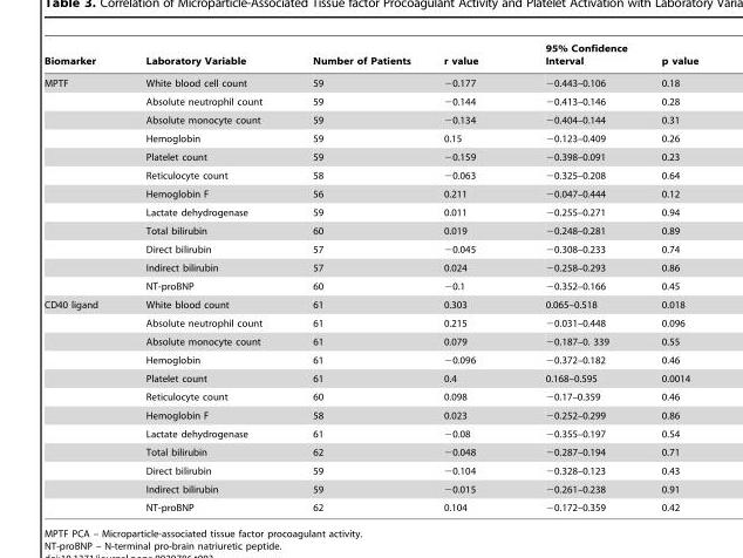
<table><thead><tr><td>Biomarker</td><td>Laboratory Variable</td><td>Number of Patients</td><td>r value</td><td>95% Confidence Interval</td><td>p value</td></tr></thead><tbody><tr><td rowspan="12">MPTF</td><td>White blood cell count</td><td>59</td><td>−0.177</td><td>−0.443–0.106</td><td>0.18</td></tr><tr><td>Absolute neutrophil count</td><td>59</td><td>−0.144</td><td>−0.413–0.146</td><td>0.28</td></tr><tr><td>Absolute monocyte count</td><td>59</td><td>−0.134</td><td>−0.404–0.144</td><td>0.31</td></tr><tr><td>Hemoglobin</td><td>59</td><td>0.15</td><td>−0.123–0.409</td><td>0.26</td></tr><tr><td>Platelet count</td><td>59</td><td>−0.159</td><td>−0.398–0.091</td><td>0.23</td></tr><tr><td>Reticulocyte count</td><td>58</td><td>−0.063</td><td>−0.325–0.208</td><td>0.64</td></tr><tr><td>Hemoglobin F</td><td>56</td><td>0.211</td><td>−0.047–0.444</td><td>0.12</td></tr><tr><td>Lactate dehydrogenase</td><td>59</td><td>0.011</td><td>−0.255–0.271</td><td>0.94</td></tr><tr><td>Total bilirubin</td><td>60</td><td>0.019</td><td>−0.248–0.281</td><td>0.89</td></tr><tr><td>Direct bilirubin</td><td>57</td><td>−0.045</td><td>−0.308–0.233</td><td>0.74</td></tr><tr><td>Indirect bilirubin</td><td>57</td><td>0.024</td><td>−0.258–0.293</td><td>0.86</td></tr><tr><td>NT-proBNP</td><td>60</td><td>−0.1</td><td>−0.352–0.166</td><td>0.45</td></tr><tr><td rowspan="12">CD40 ligand</td><td>White blood count</td><td>61</td><td>0.303</td><td>0.065–0.518</td><td>0.018</td></tr><tr><td>Absolute neutrophil count</td><td>61</td><td>0.215</td><td>−0.031–0.448</td><td>0.096</td></tr><tr><td>Absolute monocyte count</td><td>61</td><td>0.079</td><td>−0.187–0. 339</td><td>0.55</td></tr><tr><td>Hemoglobin</td><td>61</td><td>−0.096</td><td>−0.372–0.182</td><td>0.46</td></tr><tr><td>Platelet count</td><td>61</td><td>0.4</td><td>0.168–0.595</td><td>0.0014</td></tr><tr><td>Reticulocyte count</td><td>60</td><td>0.098</td><td>−0.17–0.359</td><td>0.46</td></tr><tr><td>Hemoglobin F</td><td>58</td><td>0.023</td><td>−0.252–0.299</td><td>0.86</td></tr><tr><td>Lactate dehydrogenase</td><td>61</td><td>−0.08</td><td>−0.355–0.197</td><td>0.54</td></tr><tr><td>Total bilirubin</td><td>62</td><td>−0.048</td><td>−0.287–0.194</td><td>0.71</td></tr><tr><td>Direct bilirubin</td><td>59</td><td>−0.104</td><td>−0.328–0.123</td><td>0.43</td></tr><tr><td>Indirect bilirubin</td><td>59</td><td>−0.015</td><td>−0.261–0.238</td><td>0.91</td></tr><tr><td>NT-proBNP</td><td>62</td><td>0.104</td><td>−0.172–0.359</td><td>0.42</td></tr></tbody></table>